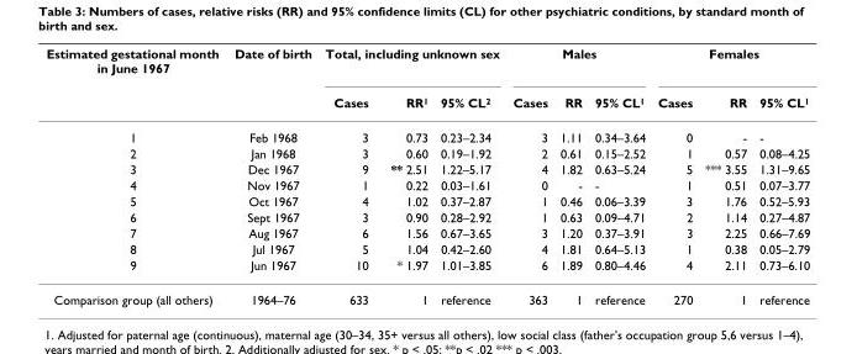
<table><thead><tr><td rowspan="2">Estimated gestational month in June 1967</td><td rowspan="2">Date of birth</td><td colspan="3">Total, including unknown sex</td><td colspan="3">Males</td><td colspan="3">Females</td></tr><tr><td>Cases</td><td>RR<sup>1</sup></td><td>95% CL<sup>2</sup></td><td>Cases</td><td>RR</td><td>95% CL<sup>1</sup></td><td>Cases</td><td>RR</td><td>95% CL<sup>1</sup></td></tr></thead><tbody><tr><td>1</td><td>Feb 1968</td><td>3</td><td>0.73</td><td>0.23–2.34</td><td>3</td><td>1.11</td><td>0.34–3.64</td><td>0</td><td>-</td><td>-</td></tr><tr><td>2</td><td>Jan 1968</td><td>3</td><td>0.60</td><td>0.19–1.92</td><td>2</td><td>0.61</td><td>0.15–2.52</td><td>1</td><td>0.57</td><td>0.08–4.25</td></tr><tr><td>3</td><td>Dec 1967</td><td>9</td><td>** 2.51</td><td>1.22–5.17</td><td>4</td><td>1.82</td><td>0.63–5.24</td><td>5</td><td>*** 3.55</td><td>1.31–9.65</td></tr><tr><td>4</td><td>Nov 1967</td><td>1</td><td>0.22</td><td>0.03–1.61</td><td>0</td><td>-</td><td>-</td><td>1</td><td>0.51</td><td>0.07–3.77</td></tr><tr><td>5</td><td>Oct 1967</td><td>4</td><td>1.02</td><td>0.37–2.87</td><td>1</td><td>0.46</td><td>0.06–3.39</td><td>3</td><td>1.76</td><td>0.52–5.93</td></tr><tr><td>6</td><td>Sept 1967</td><td>3</td><td>0.90</td><td>0.28–2.92</td><td>1</td><td>0.63</td><td>0.09–4.71</td><td>2</td><td>1.14</td><td>0.27–4.87</td></tr><tr><td>7</td><td>Aug 1967</td><td>6</td><td>1.56</td><td>0.67–3.65</td><td>3</td><td>1.20</td><td>0.37–3.91</td><td>3</td><td>2.25</td><td>0.66–7.69</td></tr><tr><td>8</td><td>Jul 1967</td><td>5</td><td>1.04</td><td>0.42–2.60</td><td>4</td><td>1.81</td><td>0.64–5.13</td><td>1</td><td>0.38</td><td>0.05–2.79</td></tr><tr><td>9</td><td>Jun 1967</td><td>10</td><td>* 1.97</td><td>1.01–3.85</td><td>6</td><td>1.89</td><td>0.80–4.46</td><td>4</td><td>2.11</td><td>0.73–6.10</td></tr><tr><td>Comparison group (all others)</td><td>1964–76</td><td>633</td><td>1</td><td>reference</td><td>363</td><td>1</td><td>reference</td><td>270</td><td>1</td><td>reference</td></tr></tbody></table>